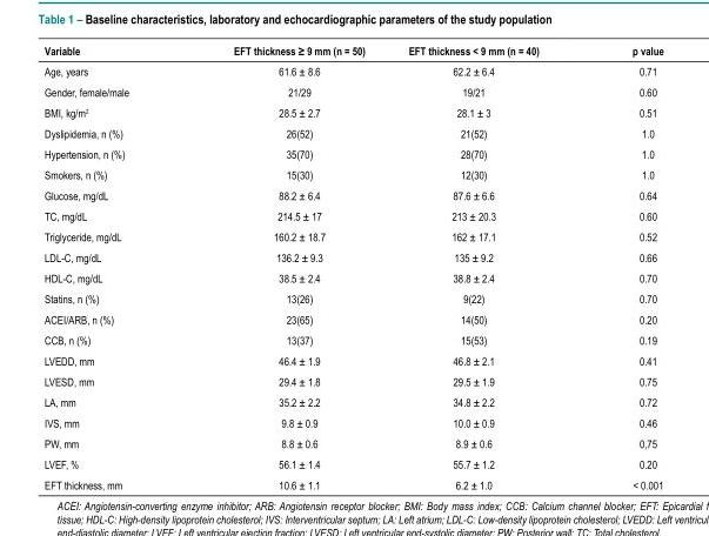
<table><thead><tr><td>Variable</td><td>EFT thickness ≥ 9 mm (n = 50)</td><td>EFT thickness &lt; 9 mm (n = 40)</td><td>p value</td></tr></thead><tbody><tr><td>Age, years</td><td>61.6 ± 8.6</td><td>62.2 ± 6.4</td><td>0.71</td></tr><tr><td>Gender, female/male</td><td>21/29</td><td>19/21</td><td>0.60</td></tr><tr><td>BMI, kg/m<sup>2</sup></td><td>28.5 ± 2.7</td><td>28.1 ± 3</td><td>0.51</td></tr><tr><td>Dyslipidemia, n (%)</td><td>26(52)</td><td>21(52)</td><td>1.0</td></tr><tr><td>Hypertension, n (%)</td><td>35(70)</td><td>28(70)</td><td>1.0</td></tr><tr><td>Smokers, n (%)</td><td>15(30)</td><td>12(30)</td><td>1.0</td></tr><tr><td>Glucose, mg/dL</td><td>88.2 ± 6.4</td><td>87.6 ± 6.6</td><td>0.64</td></tr><tr><td>TC, mg/dL</td><td>214.5 ± 17</td><td>213 ± 20.3</td><td>0.60</td></tr><tr><td>Triglyceride, mg/dL</td><td>160.2 ± 18.7</td><td>162 ± 17.1</td><td>0.52</td></tr><tr><td>LDL-C, mg/dL</td><td>136.2 ± 9.3</td><td>135 ± 9.2</td><td>0.66</td></tr><tr><td>HDL-C, mg/dL</td><td>38.5 ± 2.4</td><td>38.8 ± 2.4</td><td>0.70</td></tr><tr><td>Statins, n (%)</td><td>13(26)</td><td>9(22)</td><td>0.70</td></tr><tr><td>ACEI/ARB, n (%)</td><td>23(65)</td><td>14(50)</td><td>0.20</td></tr><tr><td>CCB, n (%)</td><td>13(37)</td><td>15(53)</td><td>0.19</td></tr><tr><td>LVEDD, mm</td><td>46.4 ± 1.9</td><td>46.8 ± 2.1</td><td>0.41</td></tr><tr><td>LVESD, mm</td><td>29.4 ± 1.8</td><td>29.5 ± 1.9</td><td>0.75</td></tr><tr><td>LA, mm</td><td>35.2 ± 2.2</td><td>34.8 ± 2.2</td><td>0.72</td></tr><tr><td>IVS, mm</td><td>9.8 ± 0.9</td><td>10.0 ± 0.9</td><td>0.46</td></tr><tr><td>PW, mm</td><td>8.8 ± 0.6</td><td>8.9 ± 0.6</td><td>0,75</td></tr><tr><td>LVEF, %</td><td>56.1 ± 1.4</td><td>55.7 ± 1.2</td><td>0.20</td></tr><tr><td>EFT thickness, mm</td><td>10.6 ± 1.1</td><td>6.2 ± 1.0</td><td>&lt; 0.001</td></tr></tbody></table>